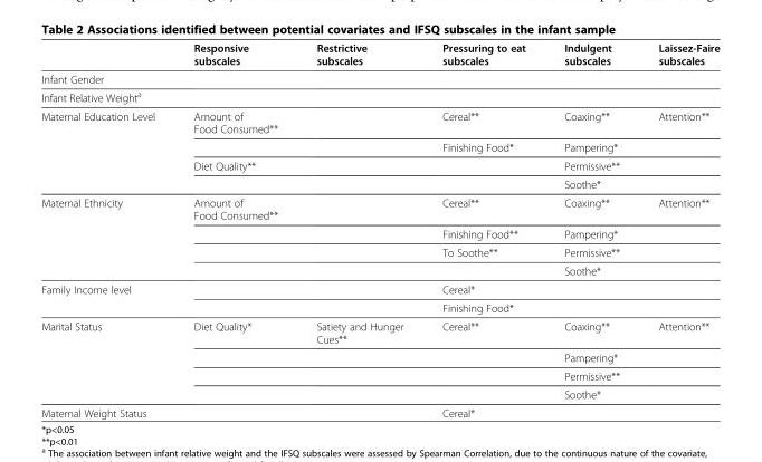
<table><thead><tr><td></td><td>Responsive subscales</td><td>Restrictive subscales</td><td>Pressuring to eat subscales</td><td>Indulgent subscales</td><td>Laissez-Faire subscales</td></tr></thead><tbody><tr><td colspan="6">Infant Gender</td></tr><tr><td colspan="6">Infant Relative Weight<sup>a</sup></td></tr><tr><td rowspan="4">Maternal Education Level</td><td>Amount of Food Consumed**</td><td></td><td>Cereal**</td><td>Coaxing**</td><td>Attention**</td></tr><tr><td></td><td></td><td>Finishing Food*</td><td>Pampering*</td><td></td></tr><tr><td>Diet Quality**</td><td></td><td></td><td>Permissive**</td><td></td></tr><tr><td></td><td></td><td></td><td>Soothe*</td><td></td></tr><tr><td rowspan="4">Maternal Ethnicity</td><td>Amount of Food Consumed**</td><td></td><td>Cereal**</td><td>Coaxing**</td><td>Attention**</td></tr><tr><td></td><td></td><td>Finishing Food**</td><td>Pampering*</td><td></td></tr><tr><td></td><td></td><td>To Soothe**</td><td>Permissive**</td><td></td></tr><tr><td></td><td></td><td></td><td>Soothe*</td><td></td></tr><tr><td rowspan="2">Family Income level</td><td></td><td></td><td>Cereal*</td><td></td><td></td></tr><tr><td></td><td></td><td>Finishing Food*</td><td></td><td></td></tr><tr><td rowspan="4">Marital Status</td><td>Diet Quality*</td><td>Satiety and Hunger Cues**</td><td>Cereal**</td><td>Coaxing**</td><td>Attention**</td></tr><tr><td></td><td></td><td></td><td>Pampering*</td><td></td></tr><tr><td></td><td></td><td></td><td>Permissive**</td><td></td></tr><tr><td></td><td></td><td></td><td>Soothe*</td><td></td></tr><tr><td>Maternal Weight Status</td><td></td><td></td><td>Cereal*</td><td></td><td></td></tr></tbody></table>